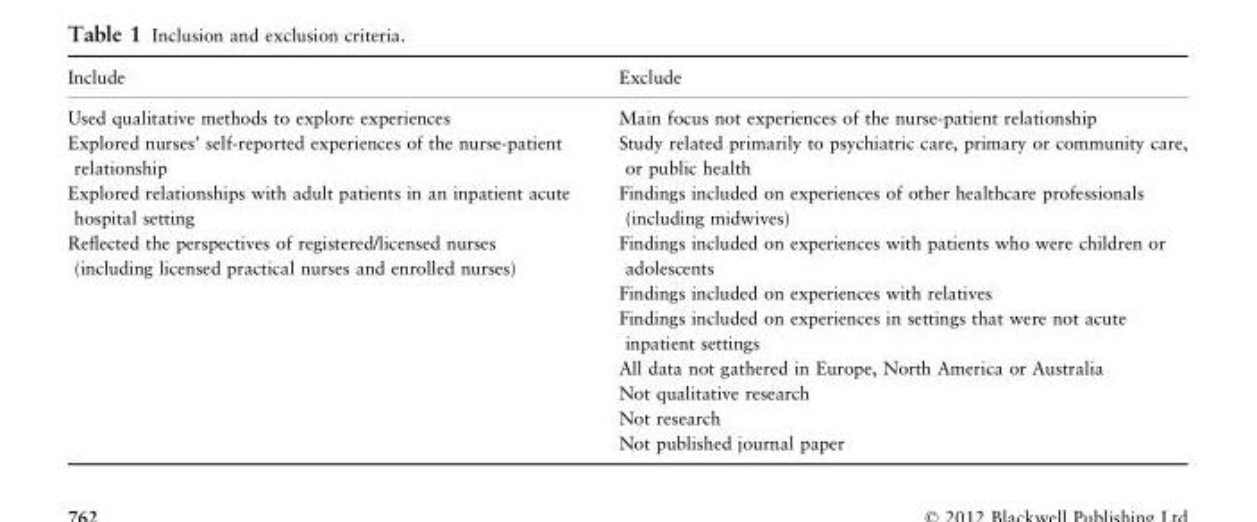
<table><thead><tr><td>Include</td><td>Exclude</td></tr></thead><tbody><tr><td>Used qualitative methods to explore experiences</td><td>Main focus not experiences of the nurse-patient relationship</td></tr><tr><td>Explored nurses’ self-reported experiences of the nurse-patient relationship</td><td>Study related primarily to psychiatric care, primary or community care, or public health</td></tr><tr><td>Explored relationships with adult patients in an inpatient acute hospital setting</td><td>Findings included on experiences of other healthcare professionals (including midwives)</td></tr><tr><td rowspan="7">Reflected the perspectives of registered/licensed nurses (including licensed practical nurses and enrolled nurses)</td><td>Findings included on experiences with patients who were children or adolescents</td></tr><tr><td>Findings included on experiences with relatives</td></tr><tr><td>Findings included on experiences in settings that were not acute inpatient settings</td></tr><tr><td>All data not gathered in Europe, North America or Australia</td></tr><tr><td>Not qualitative research</td></tr><tr><td>Not research</td></tr><tr><td>Not published journal paper</td></tr></tbody></table>